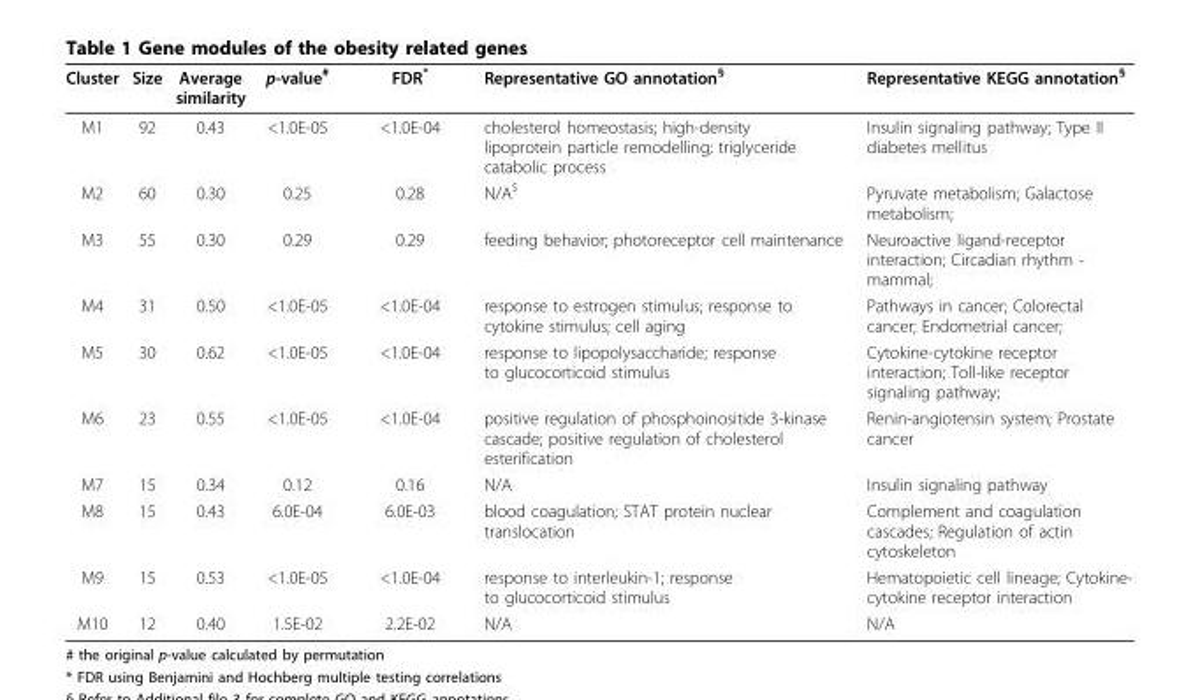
<table><thead><tr><td>Cluster</td><td>Size</td><td>Average similarity</td><td>p-value<sup>#</sup></td><td>FDR*</td><td>Representative GO annotation<sup>§</sup></td><td>Representative KEGG annotation<sup>§</sup></td></tr></thead><tbody><tr><td>M1</td><td>92</td><td>0.43</td><td>&lt;1.0E-05</td><td>&lt;1.0E-04</td><td>cholesterol homeostasis; high-density lipoprotein particle remodelling; triglyceride catabolic process</td><td>Insulin signaling pathway; Type II diabetes mellitus</td></tr><tr><td>M2</td><td>60</td><td>0.30</td><td>0.25</td><td>0.28</td><td>N/A<sup>$</sup></td><td>Pyruvate metabolism; Galactose metabolism;</td></tr><tr><td>M3</td><td>55</td><td>0.30</td><td>0.29</td><td>0.29</td><td>feeding behavior; photoreceptor cell maintenance</td><td>Neuroactive ligand-receptor interaction; Circadian rhythm - mammal;</td></tr><tr><td>M4</td><td>31</td><td>0.50</td><td>&lt;1.0E-05</td><td>&lt;1.0E-04</td><td>response to estrogen stimulus; response to cytokine stimulus; cell aging</td><td>Pathways in cancer; Colorectal cancer; Endometrial cancer;</td></tr><tr><td>M5</td><td>30</td><td>0.62</td><td>&lt;1.0E-05</td><td>&lt;1.0E-04</td><td>response to lipopolysaccharide; response to glucocorticoid stimulus</td><td>Cytokine-cytokine receptor interaction; Toll-like receptor signaling pathway;</td></tr><tr><td>M6</td><td>23</td><td>0.55</td><td>&lt;1.0E-05</td><td>&lt;1.0E-04</td><td>positive regulation of phosphoinositide 3-kinase cascade; positive regulation of cholesterol esterification</td><td>Renin-angiotensin system; Prostate cancer</td></tr><tr><td>M7</td><td>15</td><td>0.34</td><td>0.12</td><td>0.16</td><td>N/A</td><td>Insulin signaling pathway</td></tr><tr><td>M8</td><td>15</td><td>0.43</td><td>6.0E-04</td><td>6.0E-03</td><td>blood coagulation; STAT protein nuclear translocation</td><td>Complement and coagulation cascades; Regulation of actin cytoskeleton</td></tr><tr><td>M9</td><td>15</td><td>0.53</td><td>&lt;1.0E-05</td><td>&lt;1.0E-04</td><td>response to interleukin-1; response to glucocorticoid stimulus</td><td>Hematopoietic cell lineage; Cytokine- cytokine receptor interaction</td></tr><tr><td>M10</td><td>12</td><td>0.40</td><td>1.5E-02</td><td>2.2E-02</td><td>N/A</td><td>N/A</td></tr></tbody></table>